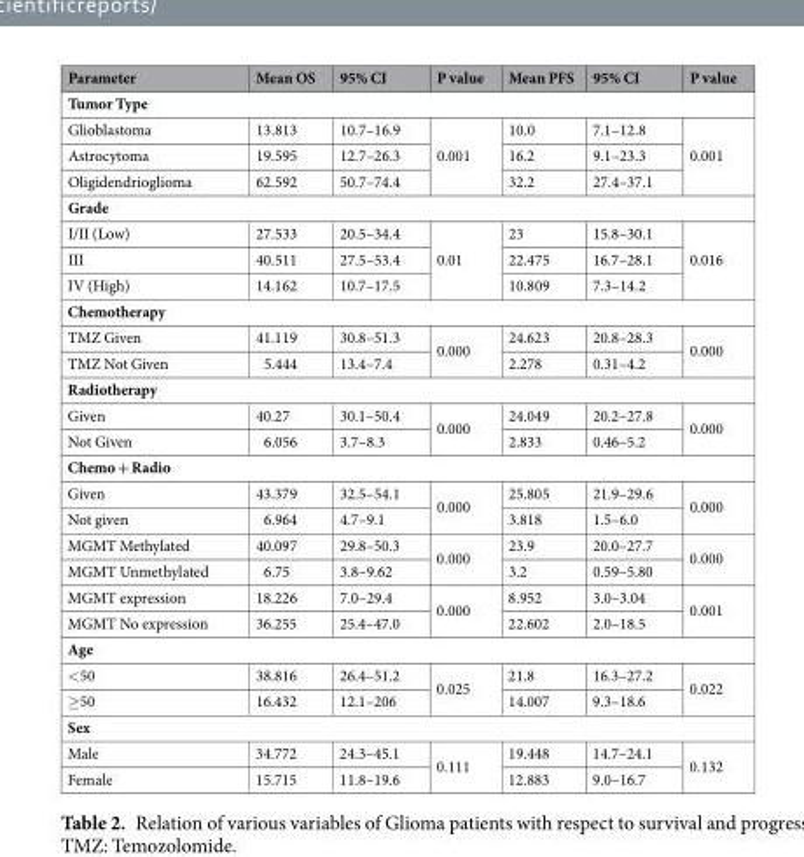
<table><thead><tr><td>Parameter</td><td>Mean OS</td><td>95% CI</td><td>P value</td><td>Mean PFS</td><td>95% CI</td><td>P value</td></tr></thead><tbody><tr><td colspan="7">Tumor Type</td></tr><tr><td>Glioblastoma</td><td>13.813</td><td>10.7–16.9</td><td rowspan="3">0.001</td><td>10.0</td><td>7.1–12.8</td><td rowspan="3">0.001</td></tr><tr><td>Astrocytoma</td><td>19.595</td><td>12.7–26.3</td><td>16.2</td><td>9.1–23.3</td></tr><tr><td>Oligidendrioglioma</td><td>62.592</td><td>50.7–74.4</td><td>32.2</td><td>27.4–37.1</td></tr><tr><td colspan="7">Grade</td></tr><tr><td>I/II (Low)</td><td>27.533</td><td>20.5–34.4</td><td rowspan="3">0.01</td><td>23</td><td>15.8–30.1</td><td rowspan="3">0.016</td></tr><tr><td>III</td><td>40.511</td><td>27.5–53.4</td><td>22.475</td><td>16.7–28.1</td></tr><tr><td>IV (High)</td><td>14.162</td><td>10.7–17.5</td><td>10.809</td><td>7.3–14.2</td></tr><tr><td colspan="7">Chemotherapy</td></tr><tr><td>TMZ Given</td><td>41.119</td><td>30.8–51.3</td><td rowspan="2">0.000</td><td>24.623</td><td>20.8–28.3</td><td rowspan="2">0.000</td></tr><tr><td>TMZ Not Given</td><td>5.444</td><td>13.4–7.4</td><td>2.278</td><td>0.31–4.2</td></tr><tr><td colspan="7">Radiotherapy</td></tr><tr><td>Given</td><td>40.27</td><td>30.1–50.4</td><td rowspan="2">0.000</td><td>24.049</td><td>20.2–27.8</td><td rowspan="2">0.000</td></tr><tr><td>Not Given</td><td>6.056</td><td>3.7–8.3</td><td>2.833</td><td>0.46–5.2</td></tr><tr><td colspan="7">Chemo + Radio</td></tr><tr><td>Given</td><td>43.379</td><td>32.5–54.1</td><td rowspan="2">0.000</td><td>25.805</td><td>21.9–29.6</td><td rowspan="2">0.000</td></tr><tr><td>Not given</td><td>6.964</td><td>4.7–9.1</td><td>3.818</td><td>1.5–6.0</td></tr><tr><td>MGMT Methylated</td><td>40.097</td><td>29.8–50.3</td><td rowspan="2">0.000</td><td>23.9</td><td>20.0–27.7</td><td rowspan="2">0.000</td></tr><tr><td>MGMT Unmethylated</td><td>6.75</td><td>3.8–9.62</td><td>3.2</td><td>0.59–5.80</td></tr><tr><td>MGMT expression</td><td>18.226</td><td>7.0–29.4</td><td rowspan="2">0.000</td><td>8.952</td><td>3.0–3.04</td><td rowspan="2">0.001</td></tr><tr><td>MGMT No expression</td><td>36.255</td><td>25.4–47.0</td><td>22.602</td><td>2.0–18.5</td></tr><tr><td colspan="7">Age</td></tr><tr><td>&lt;50</td><td>38.816</td><td>26.4–51.2</td><td rowspan="2">0.025</td><td>21.8</td><td>16.3–27.2</td><td rowspan="2">0.022</td></tr><tr><td>≥50</td><td>16.432</td><td>12.1–206</td><td>14.007</td><td>9.3–18.6</td></tr><tr><td colspan="7">Sex</td></tr><tr><td>Male</td><td>34.772</td><td>24.3–45.1</td><td rowspan="2">0.111</td><td>19.448</td><td>14.7–24.1</td><td rowspan="2">0.132</td></tr><tr><td>Female</td><td>15.715</td><td>11.8–19.6</td><td>12.883</td><td>9.0–16.7</td></tr></tbody></table>